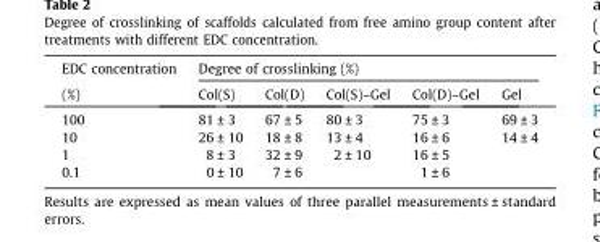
<table><thead><tr><td rowspan="2">EDC concentration (%)</td><td colspan="5">Degree of crosslinking (%)</td></tr><tr><td>Col(S)</td><td>Col(D)</td><td>Col(S)–Gel</td><td>Col(D)–Gel</td><td>Gel</td></tr></thead><tbody><tr><td>100</td><td>81 ± 3</td><td>67 ± 5</td><td>80 ± 3</td><td>75 ± 3</td><td>69 ± 3</td></tr><tr><td>10</td><td>26 ± 10</td><td>18 ± 8</td><td>13 ± 4</td><td>16 ± 6</td><td>14 ± 4</td></tr><tr><td>1</td><td>8 ± 3</td><td>32 ± 9</td><td>2 ± 10</td><td>16 ± 5</td><td></td></tr><tr><td>0.1</td><td>0 ± 10</td><td>7 ± 6</td><td></td><td>1 ± 6</td><td></td></tr></tbody></table>